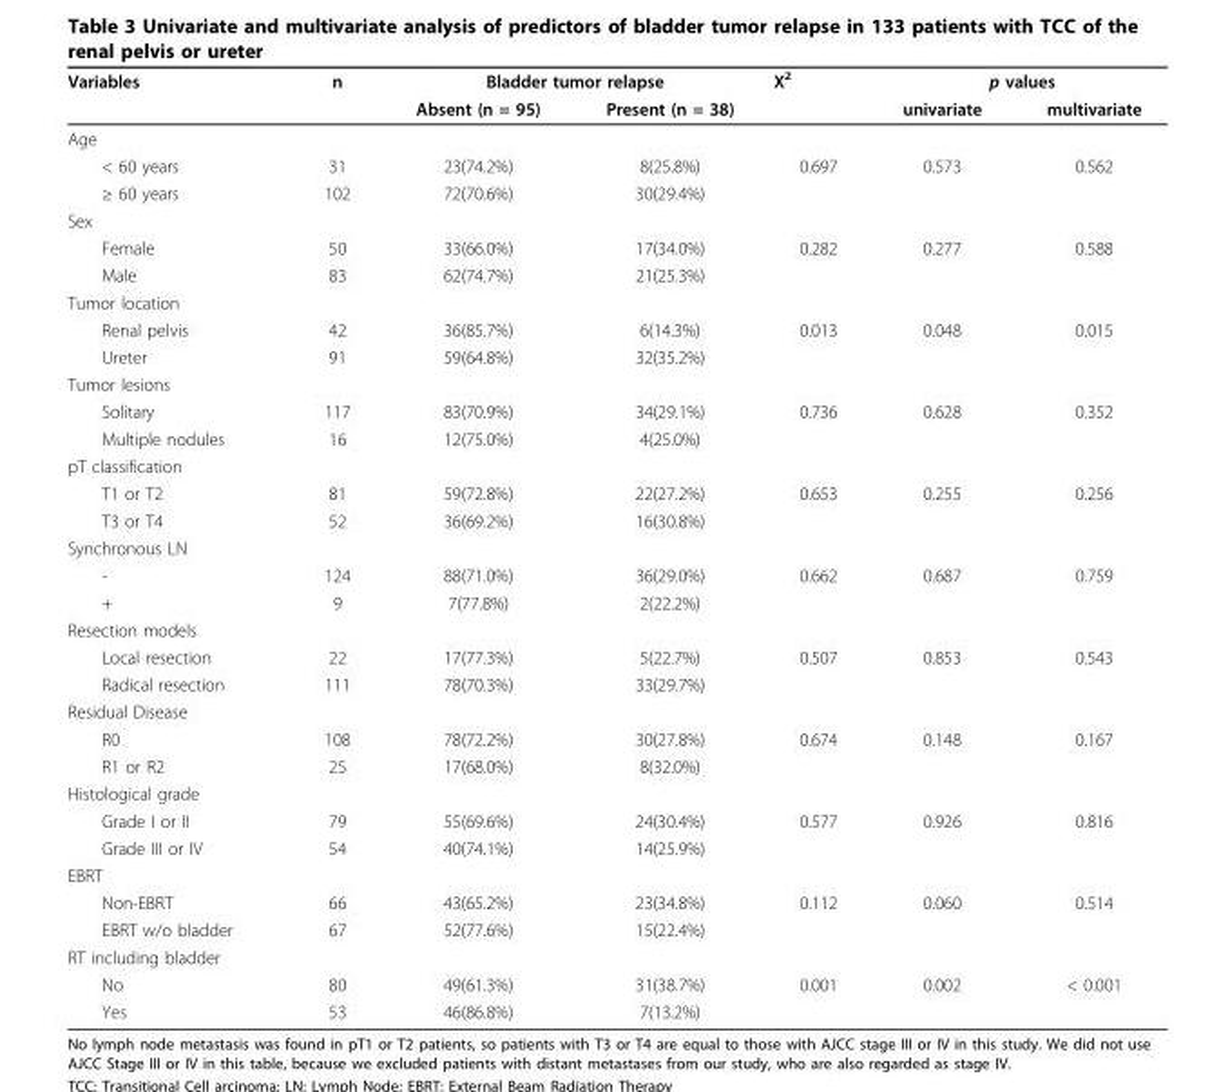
<table><thead><tr><td rowspan="2">Variables</td><td rowspan="2">n</td><td colspan="2">Bladder tumor relapse</td><td rowspan="2">X<sup>2</sup></td><td colspan="2">p values</td></tr><tr><td>Absent (n = 95)</td><td>Present (n = 38)</td><td>univariate</td><td>multivariate</td></tr></thead><tbody><tr><td colspan="7">Age</td></tr><tr><td>&lt; 60 years</td><td>31</td><td>23(74.2%)</td><td>8(25.8%)</td><td>0.697</td><td>0.573</td><td>0.562</td></tr><tr><td>≥ 60 years</td><td>102</td><td>72(70.6%)</td><td>30(29.4%)</td><td></td><td></td><td></td></tr><tr><td colspan="7">Sex</td></tr><tr><td>Female</td><td>50</td><td>33(66.0%)</td><td>17(34.0%)</td><td>0.282</td><td>0.277</td><td>0.588</td></tr><tr><td>Male</td><td>83</td><td>62(74.7%)</td><td>21(25.3%)</td><td></td><td></td><td></td></tr><tr><td colspan="7">Tumor location</td></tr><tr><td>Renal pelvis</td><td>42</td><td>36(85.7%)</td><td>6(14.3%)</td><td>0.013</td><td>0.048</td><td>0.015</td></tr><tr><td>Ureter</td><td>91</td><td>59(64.8%)</td><td>32(35.2%)</td><td></td><td></td><td></td></tr><tr><td colspan="7">Tumor lesions</td></tr><tr><td>Solitary</td><td>117</td><td>83(70.9%)</td><td>34(29.1%)</td><td>0.736</td><td>0.628</td><td>0.352</td></tr><tr><td>Multiple nodules</td><td>16</td><td>12(75.0%)</td><td>4(25.0%)</td><td></td><td></td><td></td></tr><tr><td colspan="7">pT classification</td></tr><tr><td>T1 or T2</td><td>81</td><td>59(72.8%)</td><td>22(27.2%)</td><td>0.653</td><td>0.255</td><td>0.256</td></tr><tr><td>T3 or T4</td><td>52</td><td>36(69.2%)</td><td>16(30.8%)</td><td></td><td></td><td></td></tr><tr><td colspan="7">Synchronous LN</td></tr><tr><td>-</td><td>124</td><td>88(71.0%)</td><td>36(29.0%)</td><td>0.662</td><td>0.687</td><td>0.759</td></tr><tr><td>+</td><td>9</td><td>7(77.8%)</td><td>2(22.2%)</td><td></td><td></td><td></td></tr><tr><td colspan="7">Resection models</td></tr><tr><td>Local resection</td><td>22</td><td>17(77.3%)</td><td>5(22.7%)</td><td>0.507</td><td>0.853</td><td>0.543</td></tr><tr><td>Radical resection</td><td>111</td><td>78(70.3%)</td><td>33(29.7%)</td><td></td><td></td><td></td></tr><tr><td colspan="7">Residual Disease</td></tr><tr><td>R0</td><td>108</td><td>78(72.2%)</td><td>30(27.8%)</td><td>0.674</td><td>0.148</td><td>0.167</td></tr><tr><td>R1 or R2</td><td>25</td><td>17(68.0%)</td><td>8(32.0%)</td><td></td><td></td><td></td></tr><tr><td colspan="7">Histological grade</td></tr><tr><td>Grade I or II</td><td>79</td><td>55(69.6%)</td><td>24(30.4%)</td><td>0.577</td><td>0.926</td><td>0.816</td></tr><tr><td>Grade III or IV</td><td>54</td><td>40(74.1%)</td><td>14(25.9%)</td><td></td><td></td><td></td></tr><tr><td colspan="7">EBRT</td></tr><tr><td>Non-EBRT</td><td>66</td><td>43(65.2%)</td><td>23(34.8%)</td><td>0.112</td><td>0.060</td><td>0.514</td></tr><tr><td>EBRT w/o bladder</td><td>67</td><td>52(77.6%)</td><td>15(22.4%)</td><td></td><td></td><td></td></tr><tr><td colspan="7">RT including bladder</td></tr><tr><td>No</td><td>80</td><td>49(61.3%)</td><td>31(38.7%)</td><td>0.001</td><td>0.002</td><td>&lt; 0.001</td></tr><tr><td>Yes</td><td>53</td><td>46(86.8%)</td><td>7(13.2%)</td><td></td><td></td><td></td></tr></tbody></table>